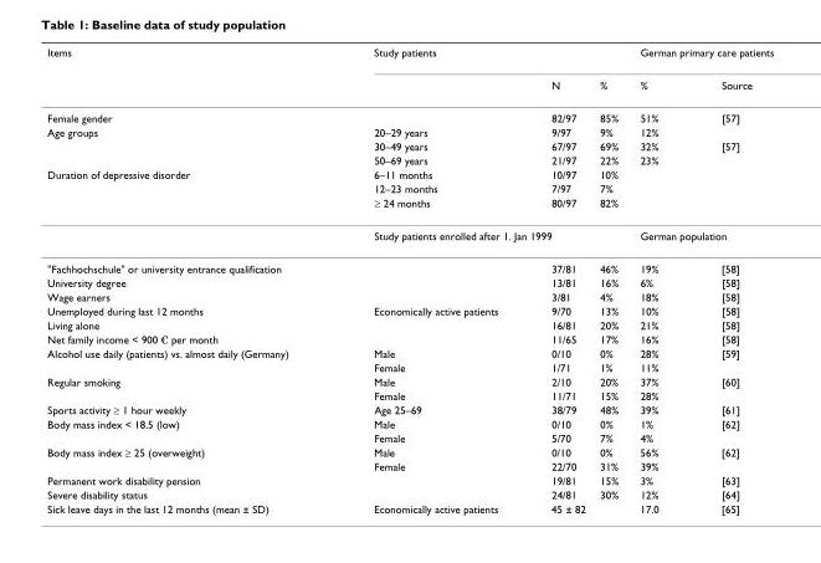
<table><thead><tr><td rowspan="2">Items</td><td colspan="3">Study patients</td><td colspan="2">German primary care patients</td></tr><tr><td></td><td>N</td><td>%</td><td>%</td><td>Source</td></tr></thead><tbody><tr><td>Female gender</td><td></td><td>82/97</td><td>85%</td><td>51%</td><td>[57]</td></tr><tr><td rowspan="3">Age groups</td><td>20–29 years</td><td>9/97</td><td>9%</td><td>12%</td><td></td></tr><tr><td>30–49 years</td><td>67/97</td><td>69%</td><td>32%</td><td>[57]</td></tr><tr><td>50–69 years</td><td>21/97</td><td>22%</td><td>23%</td><td></td></tr><tr><td rowspan="4">Duration of depressive disorder</td><td>6–11 months</td><td>10/97</td><td>10%</td><td></td><td></td></tr><tr><td>12–23 months</td><td>7/97</td><td>7%</td><td></td><td></td></tr><tr><td>≥ 24 months</td><td>80/97</td><td>82%</td><td></td><td></td></tr><tr><td colspan="3">Study patients enrolled after 1. Jan 1999</td><td colspan="2">German population</td></tr><tr><td>&quot;Fachhochschule&quot; or university entrance qualification</td><td></td><td>37/81</td><td>46%</td><td>19%</td><td>[58]</td></tr><tr><td>University degree</td><td></td><td>13/81</td><td>16%</td><td>6%</td><td>[58]</td></tr><tr><td>Wage earners</td><td></td><td>3/81</td><td>4%</td><td>18%</td><td>[58]</td></tr><tr><td>Unemployed during last 12 months</td><td>Economically active patients</td><td>9/70</td><td>13%</td><td>10%</td><td>[58]</td></tr><tr><td>Living alone</td><td></td><td>16/81</td><td>20%</td><td>21%</td><td>[58]</td></tr><tr><td>Net family income &lt; 900 € per month</td><td></td><td>11/65</td><td>17%</td><td>16%</td><td>[58]</td></tr><tr><td rowspan="2">Alcohol use daily (patients) vs. almost daily (Germany)</td><td>Male</td><td>0/10</td><td>0%</td><td>28%</td><td>[59]</td></tr><tr><td>Female</td><td>1/71</td><td>1%</td><td>11%</td><td></td></tr><tr><td rowspan="2">Regular smoking</td><td>Male</td><td>2/10</td><td>20%</td><td>37%</td><td>[60]</td></tr><tr><td>Female</td><td>11/71</td><td>15%</td><td>28%</td><td></td></tr><tr><td>Sports activity ≥ 1 hour weekly</td><td>Age 25–69</td><td>38/79</td><td>48%</td><td>39%</td><td>[61]</td></tr><tr><td rowspan="2">Body mass index &lt; 18.5 (low)</td><td>Male</td><td>0/10</td><td>0%</td><td>1%</td><td>[62]</td></tr><tr><td>Female</td><td>5/70</td><td>7%</td><td>4%</td><td></td></tr><tr><td rowspan="2">Body mass index ≥ 25 (overweight)</td><td>Male</td><td>0/10</td><td>0%</td><td>56%</td><td>[62]</td></tr><tr><td>Female</td><td>22/70</td><td>31%</td><td>39%</td><td></td></tr><tr><td>Permanent work disability pension</td><td></td><td>19/81</td><td>15%</td><td>3%</td><td>[63]</td></tr><tr><td>Severe disability status</td><td></td><td>24/81</td><td>30%</td><td>12%</td><td>[64]</td></tr><tr><td>Sick leave days in the last 12 months (mean ± SD)</td><td>Economically active patients</td><td colspan="2">45 ± 82</td><td>17.0</td><td>[65]</td></tr></tbody></table>